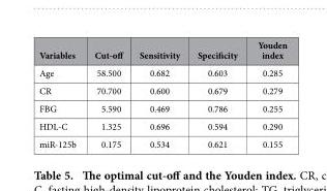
<table><thead><tr><td>Variables</td><td>Cut-off</td><td>Sensitivity</td><td>Specificity</td><td>Youden index</td></tr></thead><tbody><tr><td>Age</td><td>58.500</td><td>0.682</td><td>0.603</td><td>0.285</td></tr><tr><td>CR</td><td>70.700</td><td>0.600</td><td>0.679</td><td>0.279</td></tr><tr><td>FBG</td><td>5.590</td><td>0.469</td><td>0.786</td><td>0.255</td></tr><tr><td>HDL-C</td><td>1.325</td><td>0.696</td><td>0.594</td><td>0.290</td></tr><tr><td>miR-125b</td><td>0.175</td><td>0.534</td><td>0.621</td><td>0.155</td></tr></tbody></table>